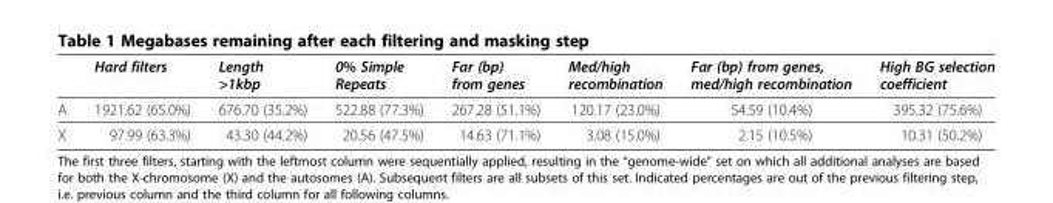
<table><thead><tr><td></td><td>Hard filters</td><td>Length &gt;1kbp</td><td>0% Simple Repeats</td><td>Far (bp) from genes</td><td>Med/high recombination</td><td>Far (bp) from genes, med/high recombination</td><td>High BG selection coefficient</td></tr></thead><tbody><tr><td>A</td><td>1921.62 (65.0%)</td><td>676.70 (35.2%)</td><td>522.88 (77.3%)</td><td>267.28 (51.1%)</td><td>120.17 (23.0%)</td><td>54.59 (10.4%)</td><td>395.32 (75.6%)</td></tr><tr><td>X</td><td>97.99 (63.3%)</td><td>43.30 (44.2%)</td><td>20.56 (47.5%)</td><td>14.63 (71.1%)</td><td>3.08 (15.0%)</td><td>2.15 (10.5%)</td><td>10.31 (50.2%)</td></tr></tbody></table>